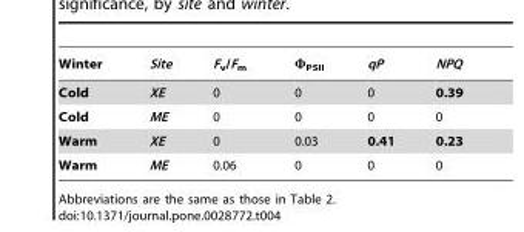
<table><thead><tr><td>Winter</td><td>Site</td><td>F<sub>v</sub>/F<sub>m</sub></td><td>Φ<sub>PSII</sub></td><td>qP</td><td>NPQ</td></tr></thead><tbody><tr><td>Cold</td><td>XE</td><td>0</td><td>0</td><td>0</td><td>0.39</td></tr><tr><td>Cold</td><td>ME</td><td>0</td><td>0</td><td>0</td><td>0</td></tr><tr><td>Warm</td><td>XE</td><td>0</td><td>0.03</td><td>0.41</td><td>0.23</td></tr><tr><td>Warm</td><td>ME</td><td>0.06</td><td>0</td><td>0</td><td>0</td></tr></tbody></table>